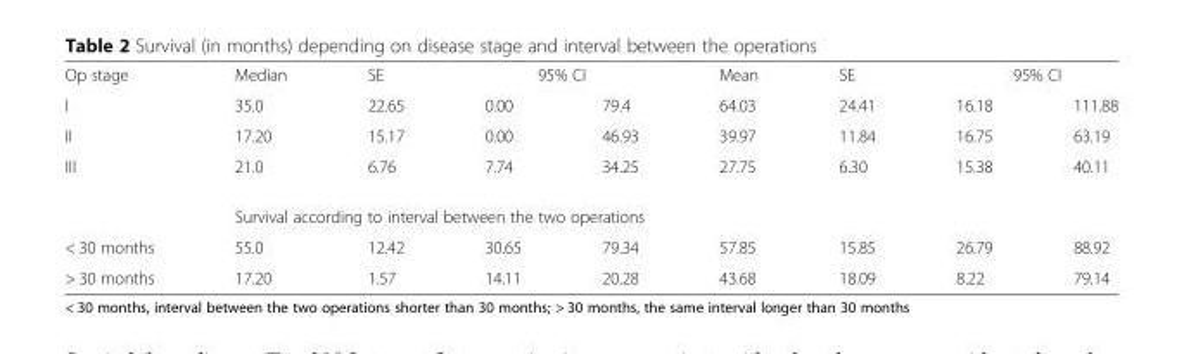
<table><tbody><tr><td>Op stage</td><td>Median</td><td>SE</td><td colspan="2">95% CI</td><td>Mean</td><td>SE</td><td colspan="2">95% CI</td></tr><tr><td>I</td><td>35.0</td><td>22.65</td><td>0.00</td><td>79.4</td><td>64.03</td><td>24.41</td><td>16.18</td><td>111.88</td></tr><tr><td>II</td><td>17.20</td><td>15.17</td><td>0.00</td><td>46.93</td><td>39.97</td><td>11.84</td><td>16.75</td><td>63.19</td></tr><tr><td rowspan="2">III</td><td>21.0</td><td>6.76</td><td>7.74</td><td>34.25</td><td>27.75</td><td>6.30</td><td>15.38</td><td>40.11</td></tr><tr><td colspan="8">Survival according to interval between the two operations</td></tr><tr><td>&lt; 30 months</td><td>55.0</td><td>12.42</td><td>30.65</td><td>79.34</td><td>57.85</td><td>15.85</td><td>26.79</td><td>88.92</td></tr><tr><td>&gt; 30 months</td><td>17.20</td><td>1.57</td><td>14.11</td><td>20.28</td><td>43.68</td><td>18.09</td><td>8.22</td><td>79.14</td></tr></tbody></table>